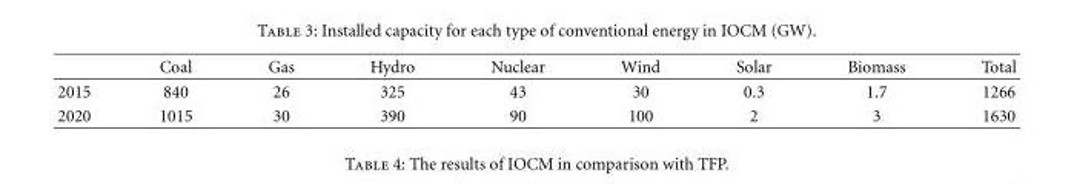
<table><thead><tr><td></td><td>Coal</td><td>Gas</td><td>Hydro</td><td>Nuclear</td><td>Wind</td><td>Solar</td><td>Biomass</td><td>Total</td></tr></thead><tbody><tr><td>2015</td><td>840</td><td>26</td><td>325</td><td>43</td><td>30</td><td>0.3</td><td>1.7</td><td>1266</td></tr><tr><td>2020</td><td>1015</td><td>30</td><td>390</td><td>90</td><td>100</td><td>2</td><td>3</td><td>1630</td></tr></tbody></table>